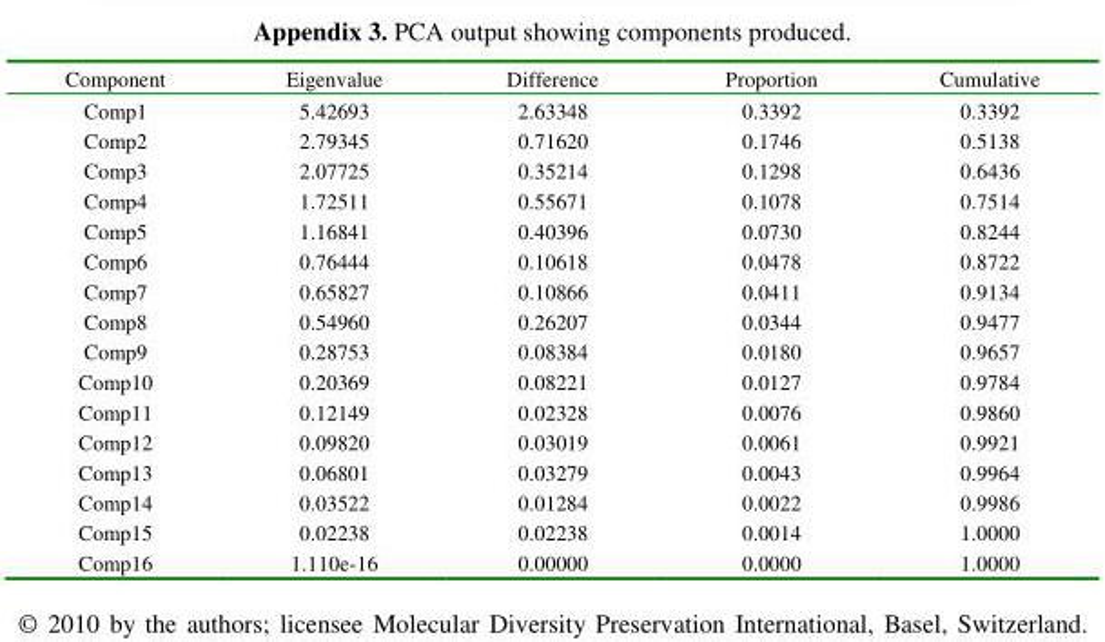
<table><thead><tr><td>Component</td><td>Eigenvalue</td><td>Difference</td><td>Proportion</td><td>Cumulative</td></tr></thead><tbody><tr><td>Comp1</td><td>5.42693</td><td>2.63348</td><td>0.3392</td><td>0.3392</td></tr><tr><td>Comp2</td><td>2.79345</td><td>0.71620</td><td>0.1746</td><td>0.5138</td></tr><tr><td>Comp3</td><td>2.07725</td><td>0.35214</td><td>0.1298</td><td>0.6436</td></tr><tr><td>Comp4</td><td>1.72511</td><td>0.55671</td><td>0.1078</td><td>0.7514</td></tr><tr><td>Comp5</td><td>1.16841</td><td>0.40396</td><td>0.0730</td><td>0.8244</td></tr><tr><td>Comp6</td><td>0.76444</td><td>0.10618</td><td>0.0478</td><td>0.8722</td></tr><tr><td>Comp7</td><td>0.65827</td><td>0.10866</td><td>0.0411</td><td>0.9134</td></tr><tr><td>Comp8</td><td>0.54960</td><td>0.26207</td><td>0.0344</td><td>0.9477</td></tr><tr><td>Comp9</td><td>0.28753</td><td>0.08384</td><td>0.0180</td><td>0.9657</td></tr><tr><td>Comp10</td><td>0.20369</td><td>0.08221</td><td>0.0127</td><td>0.9784</td></tr><tr><td>Comp11</td><td>0.12149</td><td>0.02328</td><td>0.0076</td><td>0.9860</td></tr><tr><td>Comp12</td><td>0.09820</td><td>0.03019</td><td>0.0061</td><td>0.9921</td></tr><tr><td>Comp13</td><td>0.06801</td><td>0.03279</td><td>0.0043</td><td>0.9964</td></tr><tr><td>Comp14</td><td>0.03522</td><td>0.01284</td><td>0.0022</td><td>0.9986</td></tr><tr><td>Comp15</td><td>0.02238</td><td>0.02238</td><td>0.0014</td><td>1.0000</td></tr><tr><td>Comp16</td><td>1.110e-16</td><td>0.00000</td><td>0.0000</td><td>1.0000</td></tr></tbody></table>